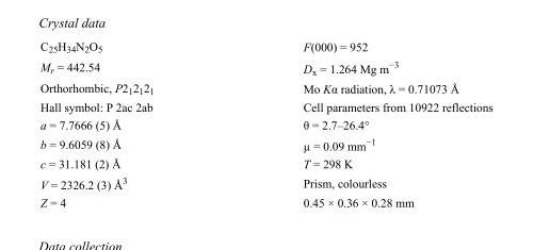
<table><tbody><tr><td>C<sub>25</sub>H<sub>34</sub>N<sub>2</sub>O<sub>5</sub></td><td>F(000) = 952</td></tr><tr><td>M<sub>r</sub> = 442.54</td><td>D<sub>x</sub> = 1.264 Mg m<sup>−3</sup></td></tr><tr><td>Orthorhombic, P2<sub>1</sub>2<sub>1</sub>2<sub>1</sub></td><td>Mo Kα radiation, λ = 0.71073 Å</td></tr><tr><td>Hall symbol: P 2ac 2ab</td><td>Cell parameters from 10922 reflections</td></tr><tr><td>a = 7.7666 (5) Å</td><td>θ = 2.7–26.4°</td></tr><tr><td>b = 9.6059 (8) Å</td><td>µ = 0.09 mm<sup>−1</sup></td></tr><tr><td>c = 31.181 (2) Å</td><td>T = 298 K</td></tr><tr><td>V = 2326.2 (3) Å<sup>3</sup></td><td>Prism, colourless</td></tr><tr><td>Z = 4</td><td>0.45 × 0.36 × 0.28 mm</td></tr></tbody></table>